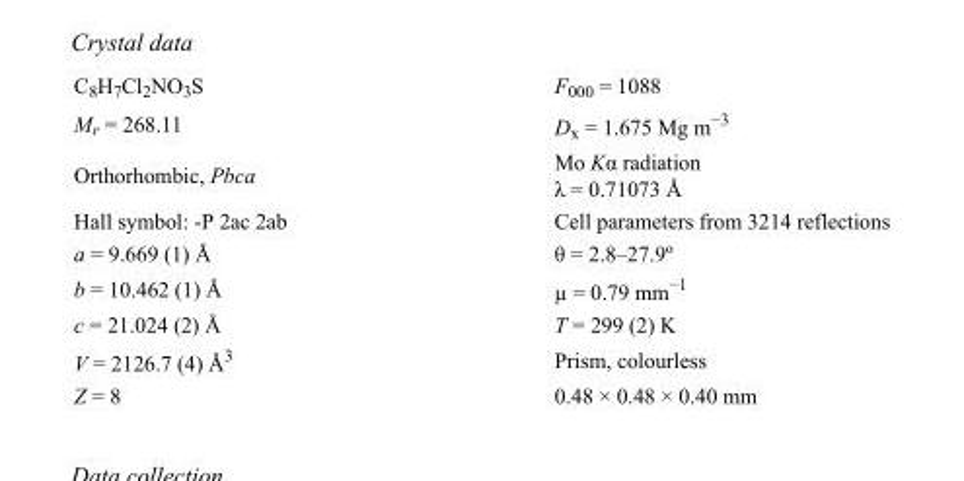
<table><tbody><tr><td>C<sub>8</sub>H<sub>7</sub>Cl<sub>2</sub>NO<sub>3</sub>S</td><td>F<sub>000</sub> = 1088</td></tr><tr><td>M<sub>r</sub> = 268.11</td><td>D<sub>x</sub> = 1.675 Mg m<sup>−3</sup></td></tr><tr><td>Orthorhombic, Pbca</td><td>Mo Kα radiation λ = 0.71073 Å</td></tr><tr><td>Hall symbol: -P 2ac 2ab</td><td>Cell parameters from 3214 reflections</td></tr><tr><td>a = 9.669 (1) Å</td><td>θ = 2.8–27.9º</td></tr><tr><td>b = 10.462 (1) Å</td><td>µ = 0.79 mm<sup>−1</sup></td></tr><tr><td>c = 21.024 (2) Å</td><td>T = 299 (2) K</td></tr><tr><td>V = 2126.7 (4) Å<sup>3</sup></td><td>Prism, colourless</td></tr><tr><td>Z = 8</td><td>0.48 × 0.48 × 0.40 mm</td></tr></tbody></table>